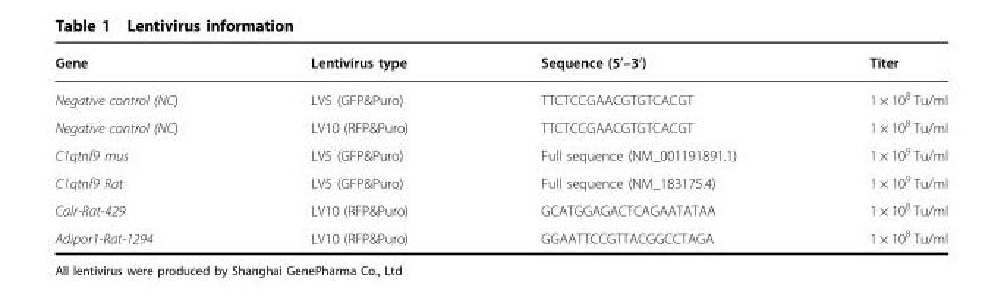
<table><thead><tr><td>Gene</td><td>Lentivirus type</td><td>Sequence (5′–3′)</td><td>Titer</td></tr></thead><tbody><tr><td>Negative control (NC)</td><td>LV5 (GFP&amp;Puro)</td><td>TTCTCCGAACGTGTCACGT</td><td>1 × 10<sup>8</sup> Tu/ml</td></tr><tr><td>Negative control (NC)</td><td>LV10 (RFP&amp;Puro)</td><td>TTCTCCGAACGTGTCACGT</td><td>1 × 10<sup>8</sup> Tu/ml</td></tr><tr><td>C1qtnf9 mus</td><td>LV5 (GFP&amp;Puro)</td><td>Full sequence (NM_001191891.1)</td><td>1 × 10<sup>9</sup> Tu/ml</td></tr><tr><td>C1qtnf9 Rat</td><td>LV5 (GFP&amp;Puro)</td><td>Full sequence (NM_183175.4)</td><td>1 × 10<sup>9</sup> Tu/ml</td></tr><tr><td>Calr-Rat-429</td><td>LV10 (RFP&amp;Puro)</td><td>GCATGGAGACTCAGAATATAA</td><td>1 × 10<sup>8</sup> Tu/ml</td></tr><tr><td>Adipor1-Rat-1294</td><td>LV10 (RFP&amp;Puro)</td><td>GGAATTCCGTTACGGCCTAGA</td><td>1 × 10<sup>8</sup> Tu/ml</td></tr></tbody></table>